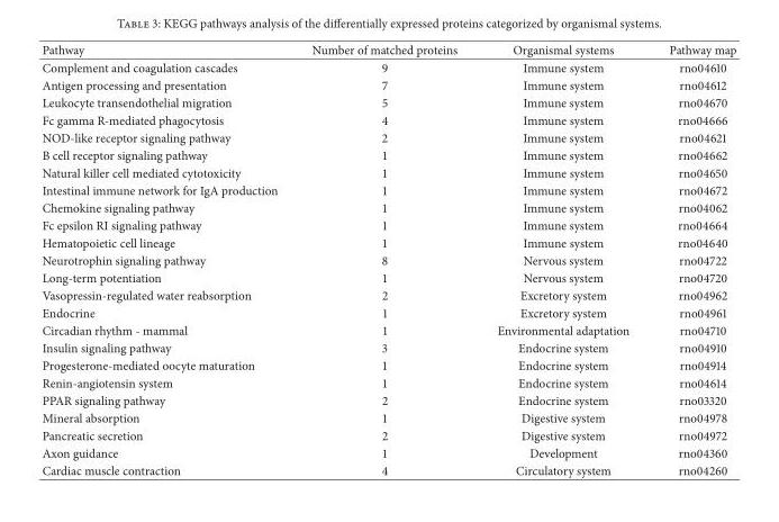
<table><thead><tr><td>Pathway</td><td>Number of matched proteins</td><td>Organismal systems</td><td>Pathway map</td></tr></thead><tbody><tr><td>Complement and coagulation cascades</td><td>9</td><td>Immune system</td><td>rno04610</td></tr><tr><td>Antigen processing and presentation</td><td>7</td><td>Immune system</td><td>rno04612</td></tr><tr><td>Leukocyte transendothelial migration</td><td>5</td><td>Immune system</td><td>rno04670</td></tr><tr><td>Fc gamma R-mediated phagocytosis</td><td>4</td><td>Immune system</td><td>rno04666</td></tr><tr><td>NOD-like receptor signaling pathway</td><td>2</td><td>Immune system</td><td>rno04621</td></tr><tr><td>B cell receptor signaling pathway</td><td>1</td><td>Immune system</td><td>rno04662</td></tr><tr><td>Natural killer cell mediated cytotoxicity</td><td>1</td><td>Immune system</td><td>rno04650</td></tr><tr><td>Intestinal immune network for IgA production</td><td>1</td><td>Immune system</td><td>rno04672</td></tr><tr><td>Chemokine signaling pathway</td><td>1</td><td>Immune system</td><td>rno04062</td></tr><tr><td>Fc epsilon RI signaling pathway</td><td>1</td><td>Immune system</td><td>rno04664</td></tr><tr><td>Hematopoietic cell lineage</td><td>1</td><td>Immune system</td><td>rno04640</td></tr><tr><td>Neurotrophin signaling pathway</td><td>8</td><td>Nervous system</td><td>rno04722</td></tr><tr><td>Long-term potentiation</td><td>1</td><td>Nervous system</td><td>rno04720</td></tr><tr><td>Vasopressin-regulated water reabsorption</td><td>2</td><td>Excretory system</td><td>rno04962</td></tr><tr><td>Endocrine</td><td>1</td><td>Excretory system</td><td>rno04961</td></tr><tr><td>Circadian rhythm - mammal</td><td>1</td><td>Environmental adaptation</td><td>rno04710</td></tr><tr><td>Insulin signaling pathway</td><td>3</td><td>Endocrine system</td><td>rno04910</td></tr><tr><td>Progesterone-mediated oocyte maturation</td><td>1</td><td>Endocrine system</td><td>rno04914</td></tr><tr><td>Renin-angiotensin system</td><td>1</td><td>Endocrine system</td><td>rno04614</td></tr><tr><td>PPAR signaling pathway</td><td>2</td><td>Endocrine system</td><td>rno03320</td></tr><tr><td>Mineral absorption</td><td>1</td><td>Digestive system</td><td>rno04978</td></tr><tr><td>Pancreatic secretion</td><td>2</td><td>Digestive system</td><td>rno04972</td></tr><tr><td>Axon guidance</td><td>1</td><td>Development</td><td>rno04360</td></tr><tr><td>Cardiac muscle contraction</td><td>4</td><td>Circulatory system</td><td>rno04260</td></tr></tbody></table>